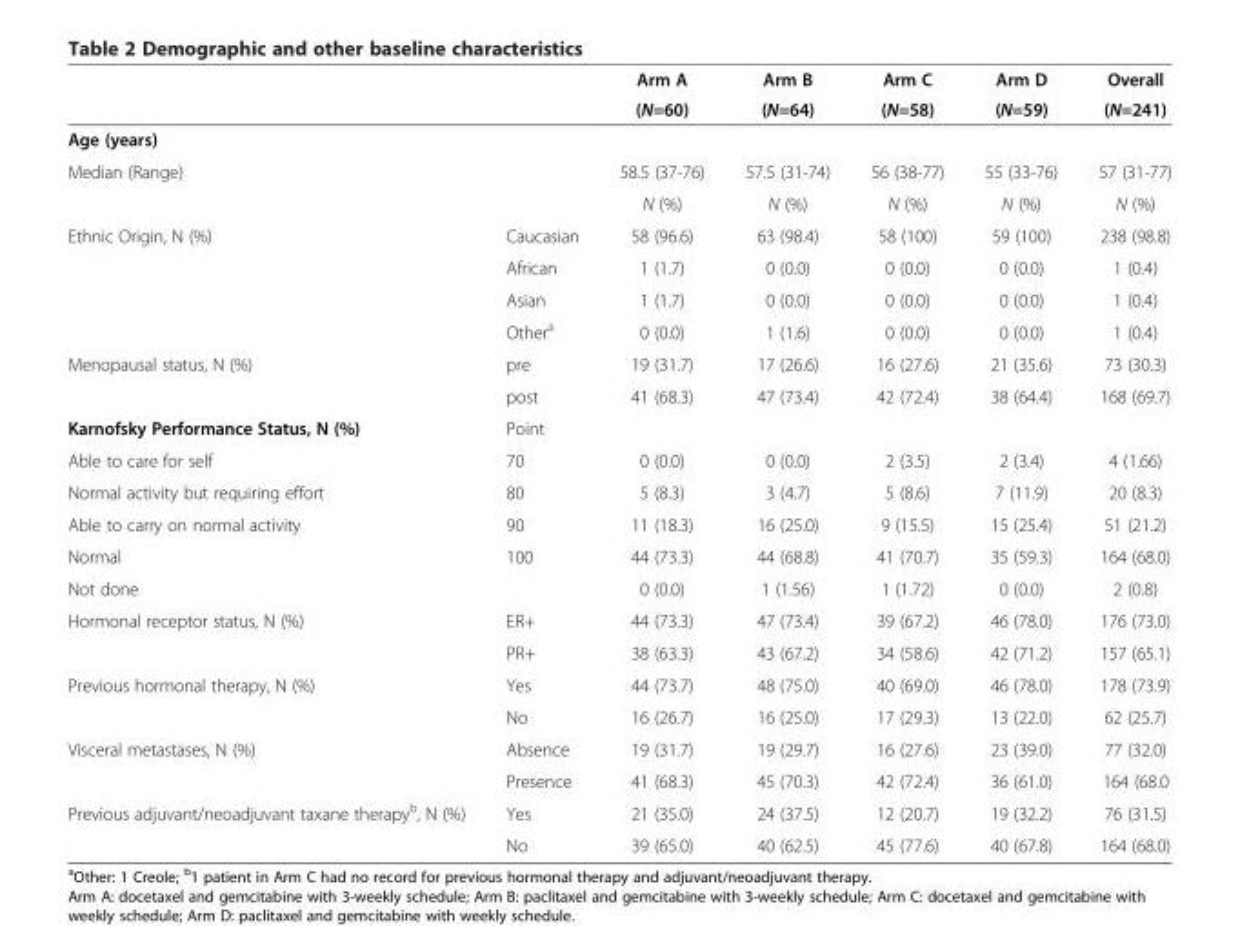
<table><thead><tr><td rowspan="2"></td><td rowspan="2"></td><td rowspan="2">Arm A (N=60)</td><td rowspan="2">Arm B (N=64)</td><td rowspan="2">Arm C (N=58)</td><td rowspan="2">Arm D (N=59)</td><td rowspan="2">Overall (N=241)</td></tr><tr></tr></thead><tbody><tr><td colspan="7">Age (years)</td></tr><tr><td rowspan="2" colspan="2">Median (Range)</td><td>58.5 (37-76)</td><td>57.5 (31-74)</td><td>56 (38-77)</td><td>55 (33-76)</td><td>57 (31-77)</td></tr><tr><td>N (%)</td><td>N (%)</td><td>N (%)</td><td>N (%)</td><td>N (%)</td></tr><tr><td rowspan="4">Ethnic Origin, N (%)</td><td>Caucasian</td><td>58 (96.6)</td><td>63 (98.4)</td><td>58 (100)</td><td>59 (100)</td><td>238 (98.8)</td></tr><tr><td>African</td><td>1 (1.7)</td><td>0 (0.0)</td><td>0 (0.0)</td><td>0 (0.0)</td><td>1 (0.4)</td></tr><tr><td>Asian</td><td>1 (1.7)</td><td>0 (0.0)</td><td>0 (0.0)</td><td>0 (0.0)</td><td>1 (0.4)</td></tr><tr><td>Other<sup>a</sup></td><td>0 (0.0)</td><td>1 (1.6)</td><td>0 (0.0)</td><td>0 (0.0)</td><td>1 (0.4)</td></tr><tr><td rowspan="2">Menopausal status, N (%)</td><td>pre</td><td>19 (31.7)</td><td>17 (26.6)</td><td>16 (27.6)</td><td>21 (35.6)</td><td>73 (30.3)</td></tr><tr><td>post</td><td>41 (68.3)</td><td>47 (73.4)</td><td>42 (72.4)</td><td>38 (64.4)</td><td>168 (69.7)</td></tr><tr><td>Karnofsky Performance Status, N (%)</td><td>Point</td><td></td><td></td><td></td><td></td><td></td></tr><tr><td>Able to care for self</td><td>70</td><td>0 (0.0)</td><td>0 (0.0)</td><td>2 (3.5)</td><td>2 (3.4)</td><td>4 (1.66)</td></tr><tr><td>Normal activity but requiring effort</td><td>80</td><td>5 (8.3)</td><td>3 (4.7)</td><td>5 (8.6)</td><td>7 (11.9)</td><td>20 (8.3)</td></tr><tr><td>Able to carry on normal activity</td><td>90</td><td>11 (18.3)</td><td>16 (25.0)</td><td>9 (15.5)</td><td>15 (25.4)</td><td>51 (21.2)</td></tr><tr><td>Normal</td><td>100</td><td>44 (73.3)</td><td>44 (68.8)</td><td>41 (70.7)</td><td>35 (59.3)</td><td>164 (68.0)</td></tr><tr><td>Not done</td><td></td><td>0 (0.0)</td><td>1 (1.56)</td><td>1 (1.72)</td><td>0 (0.0)</td><td>2 (0.8)</td></tr><tr><td rowspan="2">Hormonal receptor status, N (%)</td><td>ER+</td><td>44 (73.3)</td><td>47 (73.4)</td><td>39 (67.2)</td><td>46 (78.0)</td><td>176 (73.0)</td></tr><tr><td>PR+</td><td>38 (63.3)</td><td>43 (67.2)</td><td>34 (58.6)</td><td>42 (71.2)</td><td>157 (65.1)</td></tr><tr><td rowspan="2">Previous hormonal therapy, N (%)</td><td>Yes</td><td>44 (73.7)</td><td>48 (75.0)</td><td>40 (69.0)</td><td>46 (78.0)</td><td>178 (73.9)</td></tr><tr><td>No</td><td>16 (26.7)</td><td>16 (25.0)</td><td>17 (29.3)</td><td>13 (22.0)</td><td>62 (25.7)</td></tr><tr><td rowspan="2">Visceral metastases, N (%)</td><td>Absence</td><td>19 (31.7)</td><td>19 (29.7)</td><td>16 (27.6)</td><td>23 (39.0)</td><td>77 (32.0)</td></tr><tr><td>Presence</td><td>41 (68.3)</td><td>45 (70.3)</td><td>42 (72.4)</td><td>36 (61.0)</td><td>164 (68.0</td></tr><tr><td rowspan="2">Previous adjuvant/neoadjuvant taxane therapy<sup>b</sup>, N (%)</td><td>Yes</td><td>21 (35.0)</td><td>24 (37.5)</td><td>12 (20.7)</td><td>19 (32.2)</td><td>76 (31.5)</td></tr><tr><td>No</td><td>39 (65.0)</td><td>40 (62.5)</td><td>45 (77.6)</td><td>40 (67.8)</td><td>164 (68.0)</td></tr></tbody></table>